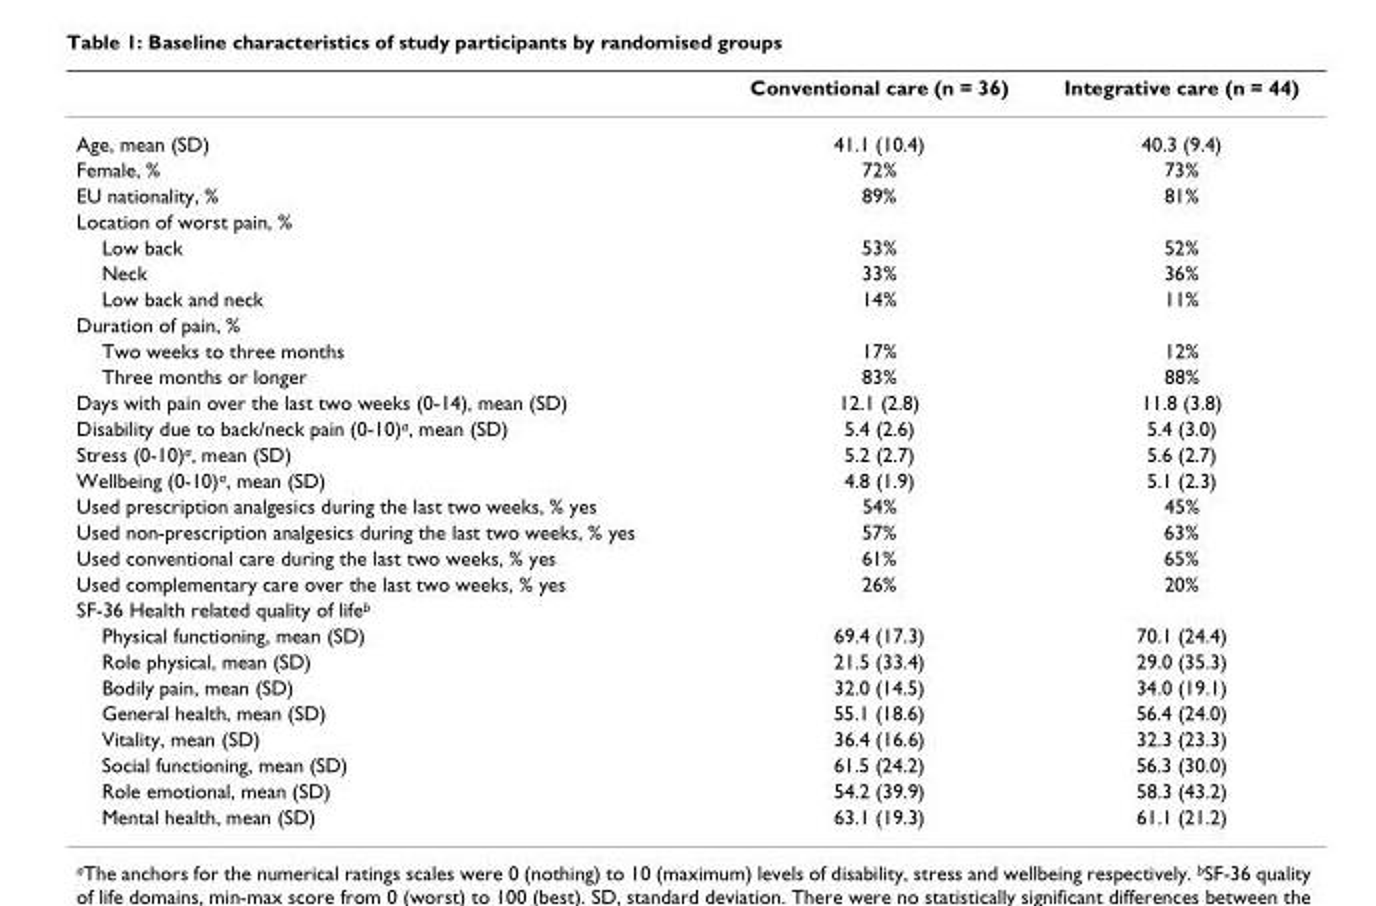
<table><thead><tr><td></td><td>Conventional care (n = 36)</td><td>Integrative care (n = 44)</td></tr></thead><tbody><tr><td>Age, mean (SD)</td><td>41.1 (10.4)</td><td>40.3 (9.4)</td></tr><tr><td>Female, %</td><td>72%</td><td>73%</td></tr><tr><td>EU nationality, %</td><td>89%</td><td>81%</td></tr><tr><td colspan="3">Location of worst pain, %</td></tr><tr><td>Low back</td><td>53%</td><td>52%</td></tr><tr><td>Neck</td><td>33%</td><td>36%</td></tr><tr><td>Low back and neck</td><td>14%</td><td>11%</td></tr><tr><td colspan="3">Duration of pain, %</td></tr><tr><td>Two weeks to three months</td><td>17%</td><td>12%</td></tr><tr><td>Three months or longer</td><td>83%</td><td>88%</td></tr><tr><td>Days with pain over the last two weeks (0-14), mean (SD)</td><td>12.1 (2.8)</td><td>11.8 (3.8)</td></tr><tr><td>Disability due to back/neck pain (0-10)<sup>a</sup>, mean (SD)</td><td>5.4 (2.6)</td><td>5.4 (3.0)</td></tr><tr><td>Stress (0-10)<sup>a</sup>, mean (SD)</td><td>5.2 (2.7)</td><td>5.6 (2.7)</td></tr><tr><td>Wellbeing (0-10)<sup>a</sup>, mean (SD)</td><td>4.8 (1.9)</td><td>5.1 (2.3)</td></tr><tr><td>Used prescription analgesics during the last two weeks, % yes</td><td>54%</td><td>45%</td></tr><tr><td>Used non-prescription analgesics during the last two weeks, % yes</td><td>57%</td><td>63%</td></tr><tr><td>Used conventional care during the last two weeks, % yes</td><td>61%</td><td>65%</td></tr><tr><td>Used complementary care over the last two weeks, % yes</td><td>26%</td><td>20%</td></tr><tr><td colspan="3">SF-36 Health related quality of life<sup>b</sup></td></tr><tr><td>Physical functioning, mean (SD)</td><td>69.4 (17.3)</td><td>70.1 (24.4)</td></tr><tr><td>Role physical, mean (SD)</td><td>21.5 (33.4)</td><td>29.0 (35.3)</td></tr><tr><td>Bodily pain, mean (SD)</td><td>32.0 (14.5)</td><td>34.0 (19.1)</td></tr><tr><td>General health, mean (SD)</td><td>55.1 (18.6)</td><td>56.4 (24.0)</td></tr><tr><td>Vitality, mean (SD)</td><td>36.4 (16.6)</td><td>32.3 (23.3)</td></tr><tr><td>Social functioning, mean (SD)</td><td>61.5 (24.2)</td><td>56.3 (30.0)</td></tr><tr><td>Role emotional, mean (SD)</td><td>54.2 (39.9)</td><td>58.3 (43.2)</td></tr><tr><td>Mental health, mean (SD)</td><td>63.1 (19.3)</td><td>61.1 (21.2)</td></tr></tbody></table>